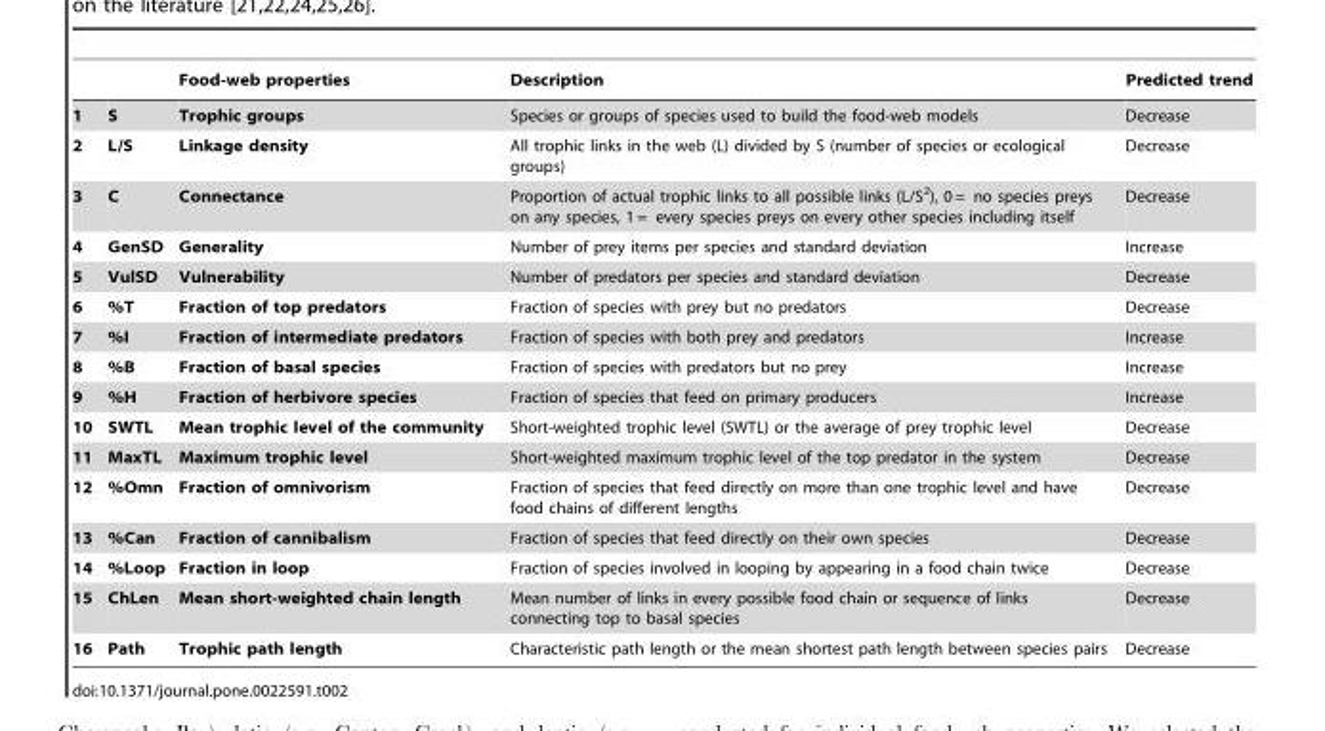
<table><thead><tr><td></td><td></td><td>Food-web properties</td><td>Description</td><td>Predicted trend</td></tr></thead><tbody><tr><td>1</td><td>S</td><td>Trophic groups</td><td>Species or groups of species used to build the food-web models</td><td>Decrease</td></tr><tr><td>2</td><td>L/S</td><td>Linkage density</td><td>All trophic links in the web (L) divided by S (number of species or ecological groups)</td><td>Decrease</td></tr><tr><td>3</td><td>C</td><td>Connectance</td><td>Proportion of actual trophic links to all possible links (L/S<sup>2</sup>), 0 = no species preys on any species, 1 = every species preys on every other species including itself</td><td>Decrease</td></tr><tr><td>4</td><td>GenSD</td><td>Generality</td><td>Number of prey items per species and standard deviation</td><td>Increase</td></tr><tr><td>5</td><td>VulSD</td><td>Vulnerability</td><td>Number of predators per species and standard deviation</td><td>Decrease</td></tr><tr><td>6</td><td>%T</td><td>Fraction of top predators</td><td>Fraction of species with prey but no predators</td><td>Decrease</td></tr><tr><td>7</td><td>%I</td><td>Fraction of intermediate predators</td><td>Fraction of species with both prey and predators</td><td>Increase</td></tr><tr><td>8</td><td>%B</td><td>Fraction of basal species</td><td>Fraction of species with predators but no prey</td><td>Increase</td></tr><tr><td>9</td><td>%H</td><td>Fraction of herbivore species</td><td>Fraction of species that feed on primary producers</td><td>Increase</td></tr><tr><td>10</td><td>SWTL</td><td>Mean trophic level of the community</td><td>Short-weighted trophic level (SWTL) or the average of prey trophic level</td><td>Decrease</td></tr><tr><td>11</td><td>MaxTL</td><td>Maximum trophic level</td><td>Short-weighted maximum trophic level of the top predator in the system</td><td>Decrease</td></tr><tr><td>12</td><td>%Omn</td><td>Fraction of omnivorism</td><td>Fraction of species that feed directly on more than one trophic level and have food chains of different lengths</td><td>Decrease</td></tr><tr><td>13</td><td>%Can</td><td>Fraction of cannibalism</td><td>Fraction of species that feed directly on their own species</td><td>Decrease</td></tr><tr><td>14</td><td>%Loop</td><td>Fraction in loop</td><td>Fraction of species involved in looping by appearing in a food chain twice</td><td>Decrease</td></tr><tr><td>15</td><td>ChLen</td><td>Mean short-weighted chain length</td><td>Mean number of links in every possible food chain or sequence of links connecting top to basal species</td><td>Decrease</td></tr><tr><td>16</td><td>Path</td><td>Trophic path length</td><td>Characteristic path length or the mean shortest path length between species pairs</td><td>Decrease</td></tr></tbody></table>